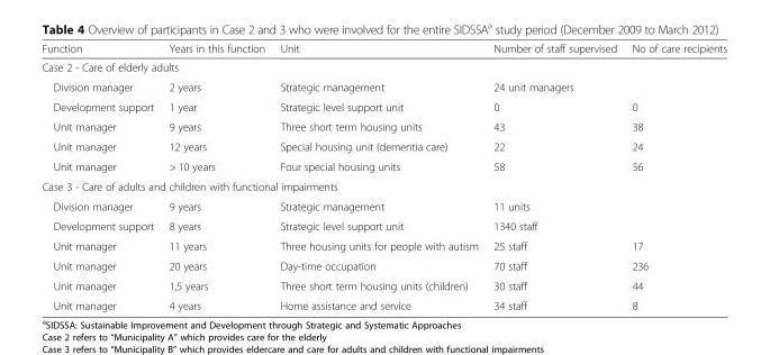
<table><thead><tr><td>Function</td><td>Years in this function</td><td>Unit</td><td>Number of staff supervised</td><td>No of care recipients</td></tr></thead><tbody><tr><td colspan="5">Case 2 - Care of elderly adults</td></tr><tr><td>Division manager</td><td>2 years</td><td>Strategic management</td><td>24 unit managers</td><td></td></tr><tr><td>Development support</td><td>1 year</td><td>Strategic level support unit</td><td>0</td><td>0</td></tr><tr><td>Unit manager</td><td>9 years</td><td>Three short term housing units</td><td>43</td><td>38</td></tr><tr><td>Unit manager</td><td>12 years</td><td>Special housing unit (dementia care)</td><td>22</td><td>24</td></tr><tr><td>Unit manager</td><td>&gt; 10 years</td><td>Four special housing units</td><td>58</td><td>56</td></tr><tr><td colspan="5">Case 3 - Care of adults and children with functional impairments</td></tr><tr><td>Division manager</td><td>9 years</td><td>Strategic management</td><td>11 units</td><td></td></tr><tr><td>Development support</td><td>8 years</td><td>Strategic level support unit</td><td>1340 staff</td><td></td></tr><tr><td>Unit manager</td><td>11 years</td><td>Three housing units for people with autism</td><td>25 staff</td><td>17</td></tr><tr><td>Unit manager</td><td>20 years</td><td>Day-time occupation</td><td>70 staff</td><td>236</td></tr><tr><td>Unit manager</td><td>1,5 years</td><td>Three short term housing units (children)</td><td>30 staff</td><td>44</td></tr><tr><td>Unit manager</td><td>4 years</td><td>Home assistance and service</td><td>34 staff</td><td>8</td></tr></tbody></table>